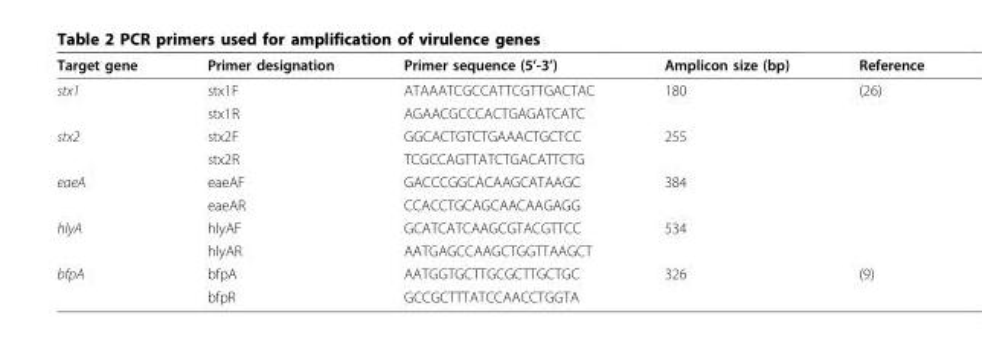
<table><thead><tr><td>Target gene</td><td>Primer designation</td><td>Primer sequence (5’-3’)</td><td>Amplicon size (bp)</td><td>Reference</td></tr></thead><tbody><tr><td rowspan="2">stx1</td><td>stx1F</td><td>ATAAATCGCCATTCGTTGACTAC</td><td>180</td><td>(26)</td></tr><tr><td>stx1R</td><td>AGAACGCCCACTGAGATCATC</td><td></td><td></td></tr><tr><td rowspan="2">stx2</td><td>stx2F</td><td>GGCACTGTCTGAAACTGCTCC</td><td>255</td><td></td></tr><tr><td>stx2R</td><td>TCGCCAGTTATCTGACATTCTG</td><td></td><td></td></tr><tr><td rowspan="2">eaeA</td><td>eaeAF</td><td>GACCCGGCACAAGCATAAGC</td><td>384</td><td></td></tr><tr><td>eaeAR</td><td>CCACCTGCAGCAACAAGAGG</td><td></td><td></td></tr><tr><td rowspan="2">hlyA</td><td>hlyAF</td><td>GCATCATCAAGCGTACGTTCC</td><td>534</td><td></td></tr><tr><td>hlyAR</td><td>AATGAGCCAAGCTGGTTAAGCT</td><td></td><td></td></tr><tr><td rowspan="2">bfpA</td><td>bfpA</td><td>AATGGTGCTTGCGCTTGCTGC</td><td>326</td><td>(9)</td></tr><tr><td>bfpR</td><td>GCCGCTTTATCCAACCTGGTA</td><td></td><td></td></tr></tbody></table>